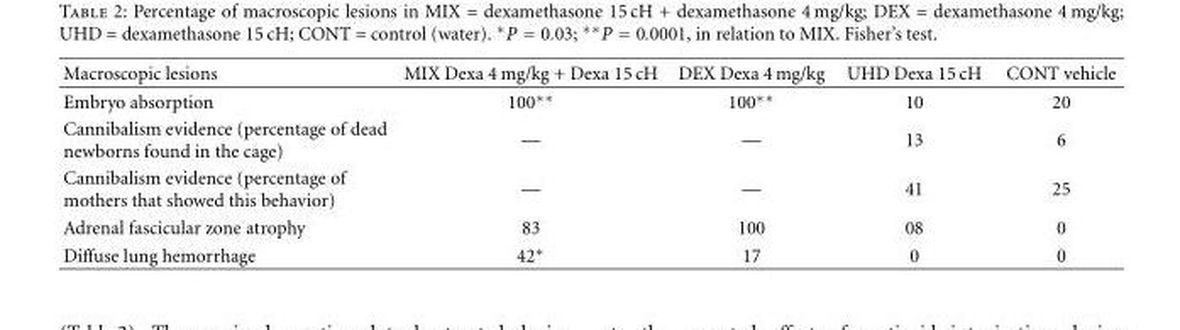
<table><thead><tr><td>Macroscopic lesions</td><td>MIX Dexa 4 mg/kg + Dexa 15 cH</td><td>DEX Dexa 4 mg/kg</td><td>UHD Dexa 15 cH</td><td>CONT vehicle</td></tr></thead><tbody><tr><td>Embryo absorption</td><td>100∗∗</td><td>100∗∗</td><td>10</td><td>20</td></tr><tr><td>Cannibalism evidence (percentage of dead newborns found in the cage)</td><td>—</td><td>—</td><td>13</td><td>6</td></tr><tr><td>Cannibalism evidence (percentage of mothers that showed this behavior)</td><td>—</td><td>—</td><td>41</td><td>25</td></tr><tr><td>Adrenal fascicular zone atrophy</td><td>83</td><td>100</td><td>08</td><td>0</td></tr><tr><td>Diffuse lung hemorrhage</td><td>42∗</td><td>17</td><td>0</td><td>0</td></tr></tbody></table>